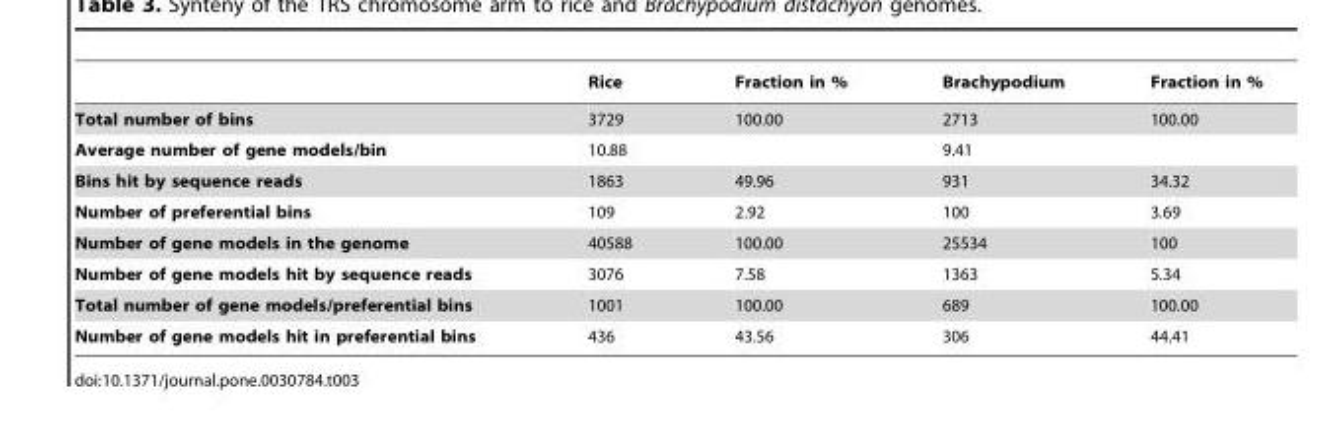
<table><thead><tr><td></td><td>Rice</td><td>Fraction in %</td><td>Brachypodium</td><td>Fraction in %</td></tr></thead><tbody><tr><td>Total number of bins</td><td>3729</td><td>100.00</td><td>2713</td><td>100.00</td></tr><tr><td>Average number of gene models/bin</td><td>10.88</td><td></td><td>9.41</td><td></td></tr><tr><td>Bins hit by sequence reads</td><td>1863</td><td>49.96</td><td>931</td><td>34.32</td></tr><tr><td>Number of preferential bins</td><td>109</td><td>2.92</td><td>100</td><td>3.69</td></tr><tr><td>Number of gene models in the genome</td><td>40588</td><td>100.00</td><td>25534</td><td>100</td></tr><tr><td>Number of gene models hit by sequence reads</td><td>3076</td><td>7.58</td><td>1363</td><td>5.34</td></tr><tr><td>Total number of gene models/preferential bins</td><td>1001</td><td>100.00</td><td>689</td><td>100.00</td></tr><tr><td>Number of gene models hit in preferential bins</td><td>436</td><td>43.56</td><td>306</td><td>44.41</td></tr></tbody></table>